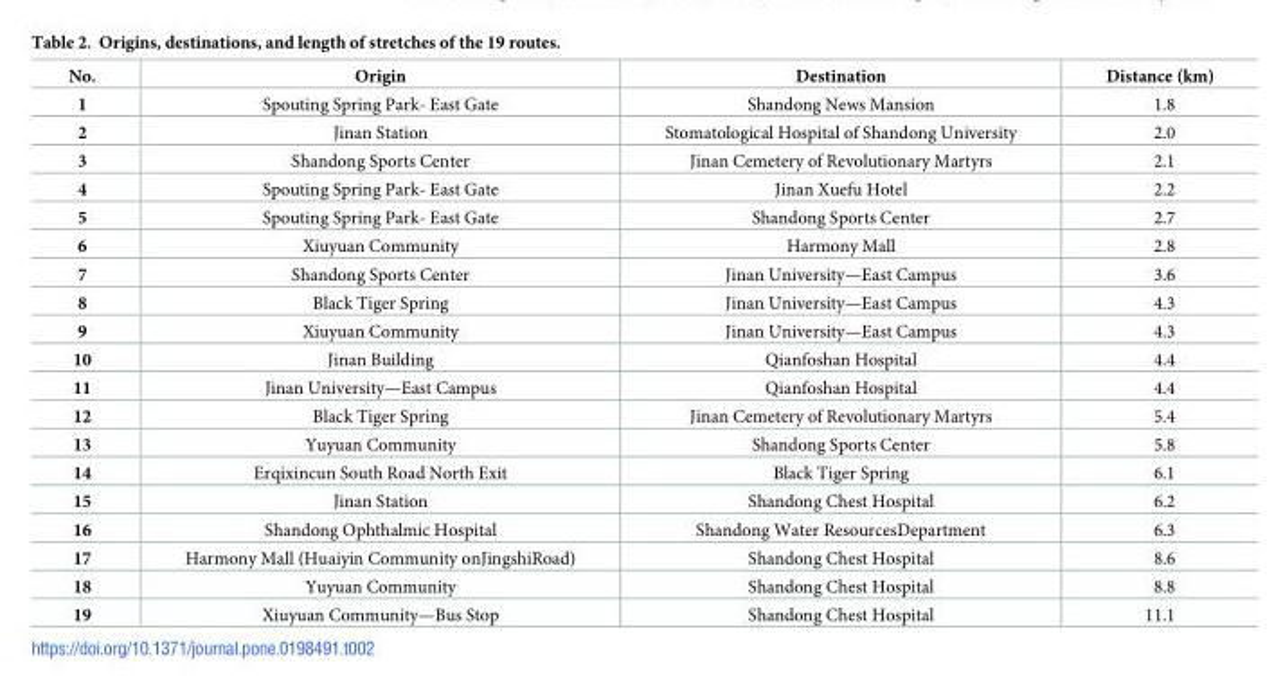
<table><thead><tr><td>No.</td><td>Origin</td><td>Destination</td><td>Distance (km)</td></tr></thead><tbody><tr><td>1</td><td>Spouting Spring Park- East Gate</td><td>Shandong News Mansion</td><td>1.8</td></tr><tr><td>2</td><td>Jinan Station</td><td>Stomatological Hospital of Shandong University</td><td>2.0</td></tr><tr><td>3</td><td>Shandong Sports Center</td><td>Jinan Cemetery of Revolutionary Martyrs</td><td>2.1</td></tr><tr><td>4</td><td>Spouting Spring Park- East Gate</td><td>Jinan Xuefu Hotel</td><td>2.2</td></tr><tr><td>5</td><td>Spouting Spring Park- East Gate</td><td>Shandong Sports Center</td><td>2.7</td></tr><tr><td>6</td><td>Xiuyuan Community</td><td>Harmony Mall</td><td>2.8</td></tr><tr><td>7</td><td>Shandong Sports Center</td><td>Jinan University—East Campus</td><td>3.6</td></tr><tr><td>8</td><td>Black Tiger Spring</td><td>Jinan University—East Campus</td><td>4.3</td></tr><tr><td>9</td><td>Xiuyuan Community</td><td>Jinan University—East Campus</td><td>4.3</td></tr><tr><td>10</td><td>Jinan Building</td><td>Qianfoshan Hospital</td><td>4.4</td></tr><tr><td>11</td><td>Jinan University—East Campus</td><td>Qianfoshan Hospital</td><td>4.4</td></tr><tr><td>12</td><td>Black Tiger Spring</td><td>Jinan Cemetery of Revolutionary Martyrs</td><td>5.4</td></tr><tr><td>13</td><td>Yuyuan Community</td><td>Shandong Sports Center</td><td>5.8</td></tr><tr><td>14</td><td>Erqixincun South Road North Exit</td><td>Black Tiger Spring</td><td>6.1</td></tr><tr><td>15</td><td>Jinan Station</td><td>Shandong Chest Hospital</td><td>6.2</td></tr><tr><td>16</td><td>Shandong Ophthalmic Hospital</td><td>Shandong Water ResourcesDepartment</td><td>6.3</td></tr><tr><td>17</td><td>Harmony Mall (Huaiyin Community onJingshiRoad)</td><td>Shandong Chest Hospital</td><td>8.6</td></tr><tr><td>18</td><td>Yuyuan Community</td><td>Shandong Chest Hospital</td><td>8.8</td></tr><tr><td>19</td><td>Xiuyuan Community—Bus Stop</td><td>Shandong Chest Hospital</td><td>11.1</td></tr></tbody></table>